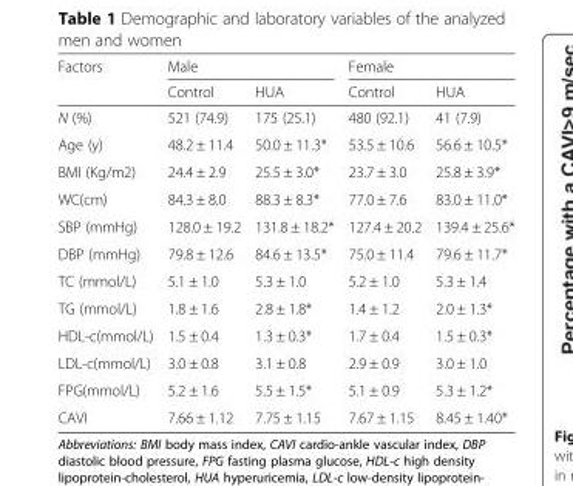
<table><thead><tr><td rowspan="2">Factors</td><td colspan="2">Male</td><td colspan="2">Female</td></tr><tr><td>Control</td><td>HUA</td><td>Control</td><td>HUA</td></tr></thead><tbody><tr><td>N (%)</td><td>521 (74.9)</td><td>175 (25.1)</td><td>480 (92.1)</td><td>41 (7.9)</td></tr><tr><td>Age (y)</td><td>48.2 ± 11.4</td><td>50.0 ± 11.3*</td><td>53.5 ± 10.6</td><td>56.6 ± 10.5*</td></tr><tr><td>BMI (Kg/m2)</td><td>24.4 ± 2.9</td><td>25.5 ± 3.0*</td><td>23.7 ± 3.0</td><td>25.8 ± 3.9*</td></tr><tr><td>WC(cm)</td><td>84.3 ± 8.0</td><td>88.3 ± 8.3*</td><td>77.0 ± 7.6</td><td>83.0 ± 11.0*</td></tr><tr><td>SBP (mmHg)</td><td>128.0 ± 19.2</td><td>131.8 ± 18.2*</td><td>127.4 ± 20.2</td><td>139.4 ± 25.6*</td></tr><tr><td>DBP (mmHg)</td><td>79.8 ± 12.6</td><td>84.6 ± 13.5*</td><td>75.0 ± 11.4</td><td>79.6 ± 11.7*</td></tr><tr><td>TC (mmol/L)</td><td>5.1 ± 1.0</td><td>5.3 ± 1.0</td><td>5.2 ± 1.0</td><td>5.3 ± 1.4</td></tr><tr><td>TG (mmol/L)</td><td>1.8 ± 1.6</td><td>2.8 ± 1.8*</td><td>1.4 ± 1.2</td><td>2.0 ± 1.3*</td></tr><tr><td>HDL-c(mmol/L)</td><td>1.5 ± 0.4</td><td>1.3 ± 0.3*</td><td>1.7 ± 0.4</td><td>1.5 ± 0.3*</td></tr><tr><td>LDL-c(mmol/L)</td><td>3.0 ± 0.8</td><td>3.1 ± 0.8</td><td>2.9 ± 0.9</td><td>3.0 ± 1.0</td></tr><tr><td>FPG(mmol/L)</td><td>5.2 ± 1.6</td><td>5.5 ± 1.5*</td><td>5.1 ± 0.9</td><td>5.3 ± 1.2*</td></tr><tr><td>CAVI</td><td>7.66 ± 1.12</td><td>7.75 ± 1.15</td><td>7.67 ± 1.15</td><td>8.45 ± 1.40*</td></tr></tbody></table>